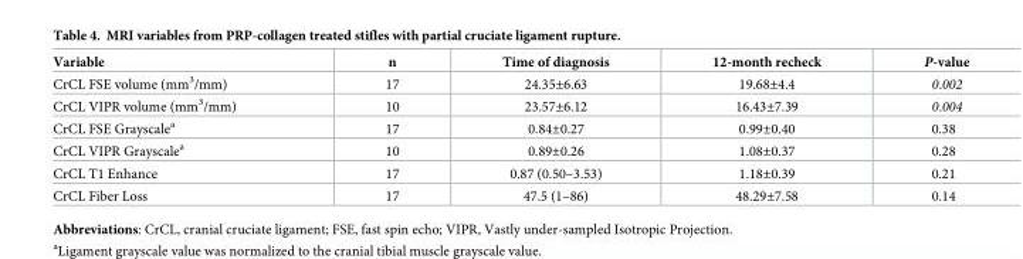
<table><thead><tr><td>Variable</td><td>n</td><td>Time of diagnosis</td><td>12-month recheck</td><td>P-value</td></tr></thead><tbody><tr><td>CrCL FSE volume (mm<sup>3</sup>/mm)</td><td>17</td><td>24.35±6.63</td><td>19.68±4.4</td><td>0.002</td></tr><tr><td>CrCL VIPR volume (mm<sup>3</sup>/mm)</td><td>10</td><td>23.57±6.12</td><td>16.43±7.39</td><td>0.004</td></tr><tr><td>CrCL FSE Grayscale<sup>a</sup></td><td>17</td><td>0.84±0.27</td><td>0.99±0.40</td><td>0.38</td></tr><tr><td>CrCL VIPR Grayscale<sup>a</sup></td><td>10</td><td>0.89±0.26</td><td>1.08±0.37</td><td>0.28</td></tr><tr><td>CrCL T1 Enhance</td><td>17</td><td>0.87 (0.50–3.53)</td><td>1.18±0.39</td><td>0.21</td></tr><tr><td>CrCL Fiber Loss</td><td>17</td><td>47.5 (1–86)</td><td>48.29±7.58</td><td>0.14</td></tr></tbody></table>